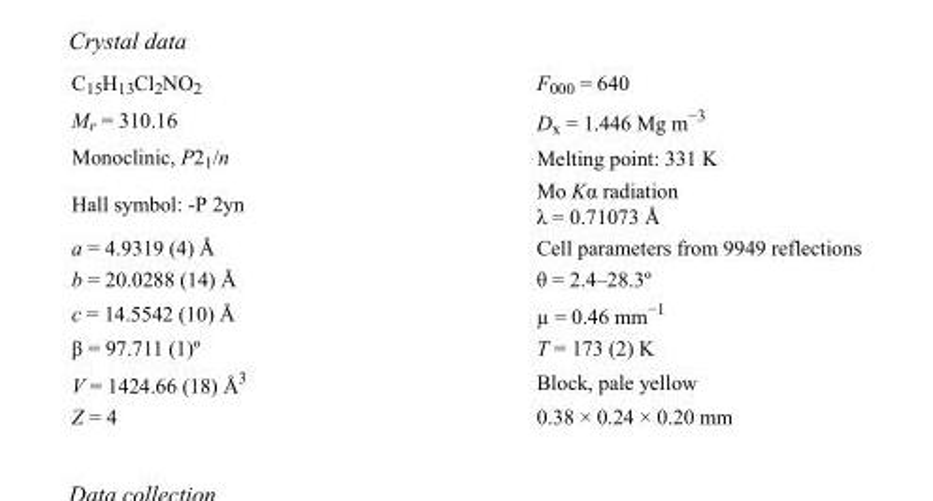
<table><tbody><tr><td>C<sub>15</sub>H<sub>13</sub>Cl<sub>2</sub>NO<sub>2</sub></td><td>F<sub>000</sub> = 640</td></tr><tr><td>M<sub>r</sub> = 310.16</td><td>D<sub>x</sub> = 1.446 Mg m<sup>−3</sup></td></tr><tr><td>Monoclinic, P2<sub>1</sub>/n</td><td>Melting point: 331 K</td></tr><tr><td>Hall symbol: -P 2yn</td><td>Mo Kα radiation λ = 0.71073 Å</td></tr><tr><td>a = 4.9319 (4) Å</td><td>Cell parameters from 9949 reflections</td></tr><tr><td>b = 20.0288 (14) Å</td><td>θ = 2.4–28.3º</td></tr><tr><td>c = 14.5542 (10) Å</td><td>µ = 0.46 mm<sup>−1</sup></td></tr><tr><td>β = 97.711 (1)º</td><td>T = 173 (2) K</td></tr><tr><td>V = 1424.66 (18) Å<sup>3</sup></td><td>Block, pale yellow</td></tr><tr><td>Z = 4</td><td>0.38 × 0.24 × 0.20 mm</td></tr></tbody></table>